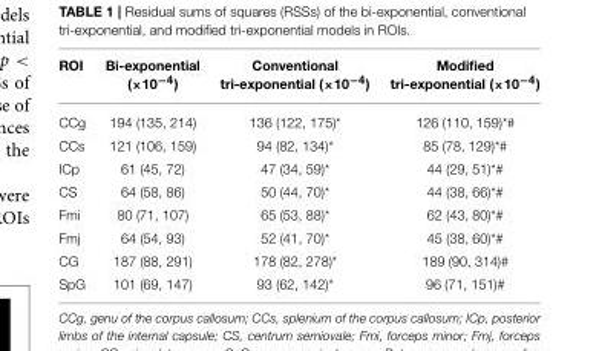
<table><thead><tr><td>ROI</td><td>Bi-exponential (×10<sup>−4</sup>)</td><td>Conventional tri-exponential (×10<sup>−4</sup>)</td><td>Modified tri-exponential (×10<sup>−4</sup>)</td></tr></thead><tbody><tr><td>CCg</td><td>194 (135, 214)</td><td>136 (122, 175)*</td><td>126 (110, 159)<sup>*#</sup></td></tr><tr><td>CCs</td><td>121 (106, 159)</td><td>94 (82, 134)*</td><td>85 (78, 129)<sup>*#</sup></td></tr><tr><td>ICp</td><td>61 (45, 72)</td><td>47 (34, 59)*</td><td>44 (29, 51)<sup>*#</sup></td></tr><tr><td>CS</td><td>64 (58, 86)</td><td>50 (44, 70)*</td><td>44 (38, 66)<sup>*#</sup></td></tr><tr><td>Fmi</td><td>80 (71, 107)</td><td>65 (53, 88)*</td><td>62 (43, 80)<sup>*#</sup></td></tr><tr><td>Fmj</td><td>64 (54, 93)</td><td>52 (41, 70)*</td><td>45 (38, 60)<sup>*#</sup></td></tr><tr><td>CG</td><td>187 (88, 291)</td><td>178 (82, 278)*</td><td>189 (90, 314)<sup>#</sup></td></tr><tr><td>SpG</td><td>101 (69, 147)</td><td>93 (62, 142)*</td><td>96 (71, 151)<sup>#</sup></td></tr></tbody></table>